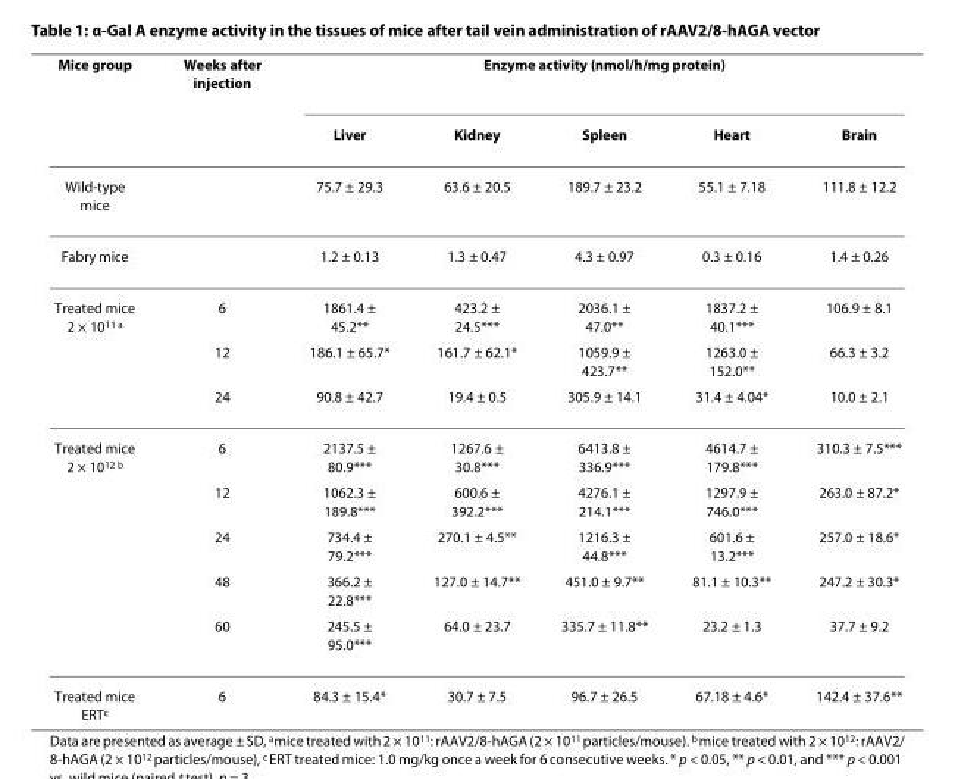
<table><thead><tr><td rowspan="2">Mice group</td><td rowspan="2">Weeks after injection</td><td colspan="5">Enzyme activity (nmol/h/mg protein)</td></tr><tr><td>Liver</td><td>Kidney</td><td>Spleen</td><td>Heart</td><td>Brain</td></tr></thead><tbody><tr><td>Wild-type mice</td><td></td><td>75.7 ± 29.3</td><td>63.6 ± 20.5</td><td>189.7 ± 23.2</td><td>55.1 ± 7.18</td><td>111.8 ± 12.2</td></tr><tr><td>Fabry mice</td><td></td><td>1.2 ± 0.13</td><td>1.3 ± 0.47</td><td>4.3 ± 0.97</td><td>0.3 ± 0.16</td><td>1.4 ± 0.26</td></tr><tr><td rowspan="3">Treated mice 2 × 10<sup>11 a</sup></td><td>6</td><td>1861.4 ± 45.2**</td><td>423.2 ± 24.5***</td><td>2036.1 ± 47.0**</td><td>1837.2 ± 40.1***</td><td>106.9 ± 8.1</td></tr><tr><td>12</td><td>186.1 ± 65.7*</td><td>161.7 ± 62.1*</td><td>1059.9 ± 423.7**</td><td>1263.0 ± 152.0**</td><td>66.3 ± 3.2</td></tr><tr><td>24</td><td>90.8 ± 42.7</td><td>19.4 ± 0.5</td><td>305.9 ± 14.1</td><td>31.4 ± 4.04*</td><td>10.0 ± 2.1</td></tr><tr><td rowspan="5">Treated mice 2 × 10<sup>12 b</sup></td><td>6</td><td>2137.5 ± 80.9***</td><td>1267.6 ± 30.8***</td><td>6413.8 ± 336.9***</td><td>4614.7 ± 179.8***</td><td>310.3 ± 7.5***</td></tr><tr><td>12</td><td>1062.3 ± 189.8***</td><td>600.6 ± 392.2***</td><td>4276.1 ± 214.1***</td><td>1297.9 ± 746.0***</td><td>263.0 ± 87.2*</td></tr><tr><td>24</td><td>734.4 ± 79.2***</td><td>270.1 ± 4.5**</td><td>1216.3 ± 44.8***</td><td>601.6 ± 13.2***</td><td>257.0 ± 18.6*</td></tr><tr><td>48</td><td>366.2 ± 22.8***</td><td>127.0 ± 14.7**</td><td>451.0 ± 9.7**</td><td>81.1 ± 10.3**</td><td>247.2 ± 30.3*</td></tr><tr><td>60</td><td>245.5 ± 95.0***</td><td>64.0 ± 23.7</td><td>335.7 ± 11.8**</td><td>23.2 ± 1.3</td><td>37.7 ± 9.2</td></tr><tr><td>Treated mice ERT<sup>c</sup></td><td>6</td><td>84.3 ± 15.4*</td><td>30.7 ± 7.5</td><td>96.7 ± 26.5</td><td>67.18 ± 4.6*</td><td>142.4 ± 37.6**</td></tr></tbody></table>